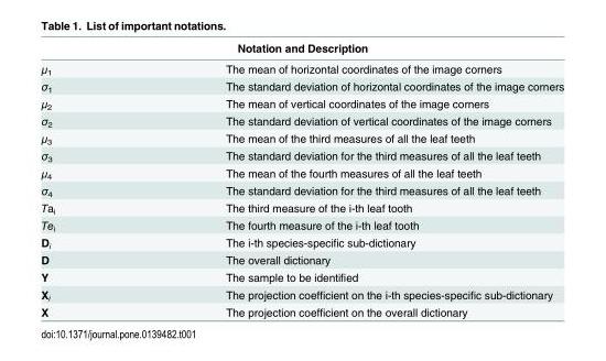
<table><thead><tr><td colspan="2">Notation and Description</td></tr><tr><td>μ<sub>1</sub></td><td>The mean of horizontal coordinates of the image corners</td></tr></thead><tbody><tr><td>σ<sub>1</sub></td><td>The standard deviation of horizontal coordinates of the image corners</td></tr><tr><td>μ<sub>2</sub></td><td>The mean of vertical coordinates of the image corners</td></tr><tr><td>σ<sub>2</sub></td><td>The standard deviation of vertical coordinates of the image corners</td></tr><tr><td>μ<sub>3</sub></td><td>The mean of the third measures of all the leaf teeth</td></tr><tr><td>σ<sub>3</sub></td><td>The standard deviation for the third measures of all the leaf teeth</td></tr><tr><td>μ<sub>4</sub></td><td>The mean of the fourth measures of all the leaf teeth</td></tr><tr><td>σ<sub>4</sub></td><td>The standard deviation for the third measures of all the leaf teeth</td></tr><tr><td>Ta<sub>i</sub></td><td>The third measure of the i-th leaf tooth</td></tr><tr><td>Te<sub>i</sub></td><td>The fourth measure of the i-th leaf tooth</td></tr><tr><td>D<sub>i</sub></td><td>The i-th species-specific sub-dictionary</td></tr><tr><td>D</td><td>The overall dictionary</td></tr><tr><td>Y</td><td>The sample to be identified</td></tr><tr><td>X<sub>i</sub></td><td>The projection coefficient on the i-th species-specific sub-dictionary</td></tr><tr><td>X</td><td>The projection coefficient on the overall dictionary</td></tr></tbody></table>